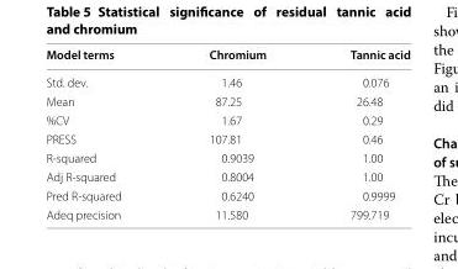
<table><thead><tr><td>Model terms</td><td>Chromium</td><td>Tannic acid</td></tr></thead><tbody><tr><td>Std. dev.</td><td>1.46</td><td>0.076</td></tr><tr><td>Mean</td><td>87.25</td><td>26.48</td></tr><tr><td>%CV</td><td>1.67</td><td>0.29</td></tr><tr><td>PRESS</td><td>107.81</td><td>0.46</td></tr><tr><td>R-squared</td><td>0.9039</td><td>1.00</td></tr><tr><td>Adj R-squared</td><td>0.8004</td><td>1.00</td></tr><tr><td>Pred R-squared</td><td>0.6240</td><td>0.9999</td></tr><tr><td>Adeq precision</td><td>11.580</td><td>799.719</td></tr></tbody></table>